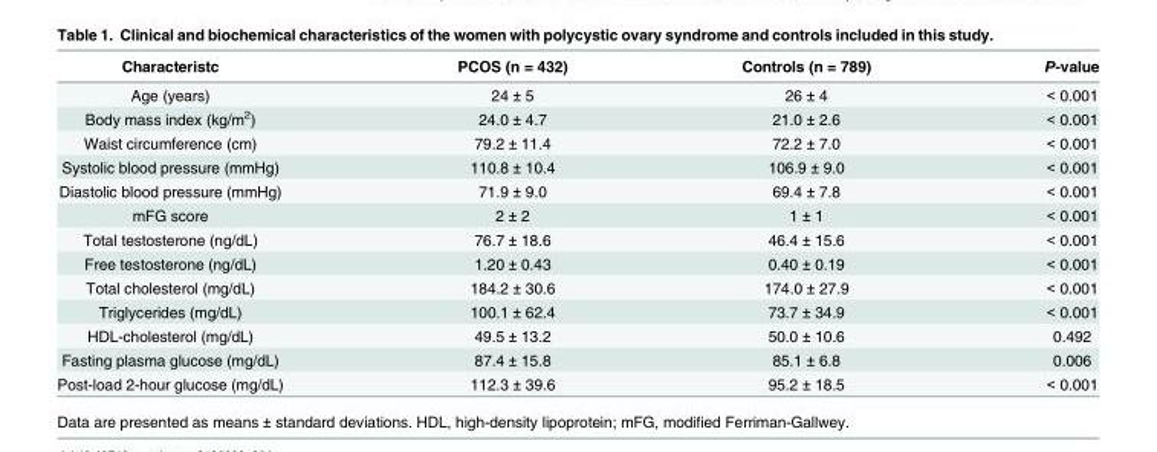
<table><thead><tr><td>Characteristc</td><td>PCOS (n = 432)</td><td>Controls (n = 789)</td><td>P-value</td></tr></thead><tbody><tr><td>Age (years)</td><td>24 ± 5</td><td>26 ± 4</td><td>&lt; 0.001</td></tr><tr><td>Body mass index (kg/m<sup>2</sup>)</td><td>24.0 ± 4.7</td><td>21.0 ± 2.6</td><td>&lt; 0.001</td></tr><tr><td>Waist circumference (cm)</td><td>79.2 ± 11.4</td><td>72.2 ± 7.0</td><td>&lt; 0.001</td></tr><tr><td>Systolic blood pressure (mmHg)</td><td>110.8 ± 10.4</td><td>106.9 ± 9.0</td><td>&lt; 0.001</td></tr><tr><td>Diastolic blood pressure (mmHg)</td><td>71.9 ± 9.0</td><td>69.4 ± 7.8</td><td>&lt; 0.001</td></tr><tr><td>mFG score</td><td>2 ± 2</td><td>1 ± 1</td><td>&lt; 0.001</td></tr><tr><td>Total testosterone (ng/dL)</td><td>76.7 ± 18.6</td><td>46.4 ± 15.6</td><td>&lt; 0.001</td></tr><tr><td>Free testosterone (ng/dL)</td><td>1.20 ± 0.43</td><td>0.40 ± 0.19</td><td>&lt; 0.001</td></tr><tr><td>Total cholesterol (mg/dL)</td><td>184.2 ± 30.6</td><td>174.0 ± 27.9</td><td>&lt; 0.001</td></tr><tr><td>Triglycerides (mg/dL)</td><td>100.1 ± 62.4</td><td>73.7 ± 34.9</td><td>&lt; 0.001</td></tr><tr><td>HDL-cholesterol (mg/dL)</td><td>49.5 ± 13.2</td><td>50.0 ± 10.6</td><td>0.492</td></tr><tr><td>Fasting plasma glucose (mg/dL)</td><td>87.4 ± 15.8</td><td>85.1 ± 6.8</td><td>0.006</td></tr><tr><td>Post-load 2-hour glucose (mg/dL)</td><td>112.3 ± 39.6</td><td>95.2 ± 18.5</td><td>&lt; 0.001</td></tr></tbody></table>